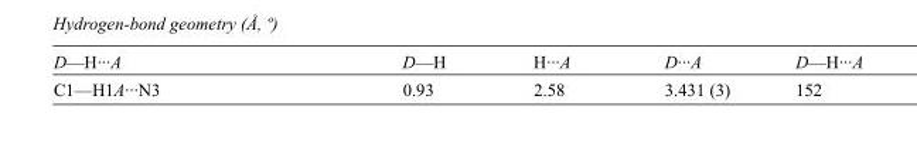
<table><tbody><tr><td>D—H···A</td><td>D—H</td><td>H···A</td><td>D···A</td><td>D—H···A</td></tr><tr><td>C1—H1A···N3</td><td>0.93</td><td>2.58</td><td>3.431 (3)</td><td>152</td></tr></tbody></table>